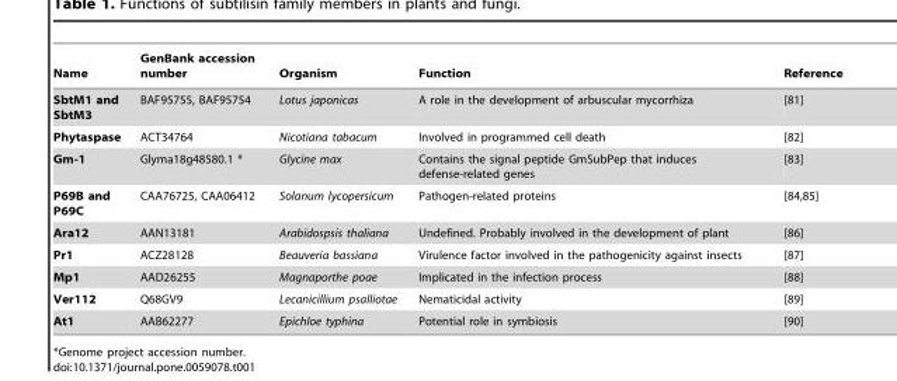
<table><thead><tr><td>Name</td><td>GenBank accession number</td><td>Organism</td><td>Function</td><td>Reference</td></tr></thead><tbody><tr><td>SbtM1 and SbtM3</td><td>BAF95755, BAF95754</td><td>Lotus japonicas</td><td>A role in the development of arbuscular mycorrhiza</td><td>[81]</td></tr><tr><td>Phytaspase</td><td>ACT34764</td><td>Nicotiana tabacum</td><td>Involved in programmed cell death</td><td>[82]</td></tr><tr><td>Gm-1</td><td>Glyma18g48580.1 *</td><td>Glycine max</td><td>Contains the signal peptide GmSubPep that induces defense-related genes</td><td>[83]</td></tr><tr><td>P69B and P69C</td><td>CAA76725, CAA06412</td><td>Solanum lycopersicum</td><td>Pathogen-related proteins</td><td>[84,85]</td></tr><tr><td>Ara12</td><td>AAN13181</td><td>Arabidospsis thaliana</td><td>Undefined. Probably involved in the development of plant</td><td>[86]</td></tr><tr><td>Pr1</td><td>ACZ28128</td><td>Beauveria bassiana</td><td>Virulence factor involved in the pathogenicity against insects</td><td>[87]</td></tr><tr><td>Mp1</td><td>AAD26255</td><td>Magnaporthe poae</td><td>Implicated in the infection process</td><td>[88]</td></tr><tr><td>Ver112</td><td>Q68GV9</td><td>Lecanicillium psalliotae</td><td>Nematicidal activity</td><td>[89]</td></tr><tr><td>At1</td><td>AAB62277</td><td>Epichloe typhina</td><td>Potential role in symbiosis</td><td>[90]</td></tr></tbody></table>